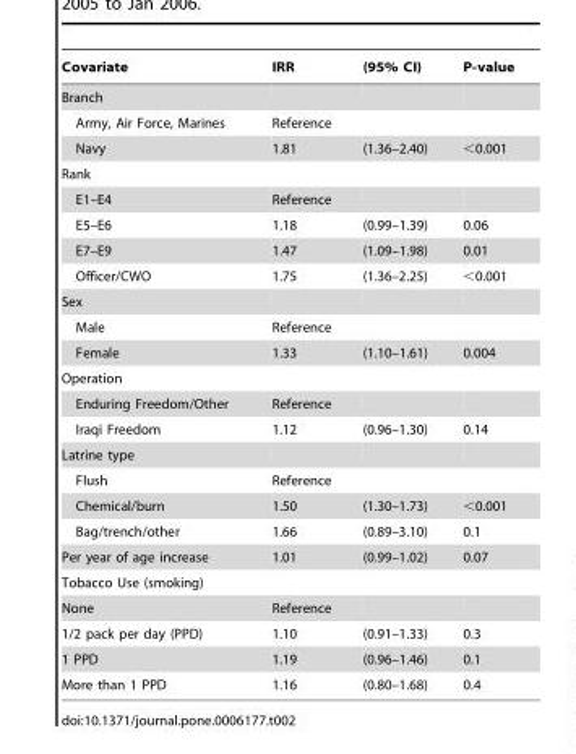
<table><thead><tr><td>Covariate</td><td>IRR</td><td>(95% CI)</td><td>P-value</td></tr></thead><tbody><tr><td colspan="4">Branch</td></tr><tr><td>Army, Air Force, Marines</td><td>Reference</td><td></td><td></td></tr><tr><td>Navy</td><td>1.81</td><td>(1.36–2.40)</td><td>&lt;0.001</td></tr><tr><td colspan="4">Rank</td></tr><tr><td>E1–E4</td><td>Reference</td><td></td><td></td></tr><tr><td>E5–E6</td><td>1.18</td><td>(0.99–1.39)</td><td>0.06</td></tr><tr><td>E7–E9</td><td>1.47</td><td>(1.09–1.98)</td><td>0.01</td></tr><tr><td>Officer/CWO</td><td>1.75</td><td>(1.36–2.25)</td><td>&lt;0.001</td></tr><tr><td colspan="4">Sex</td></tr><tr><td>Male</td><td>Reference</td><td></td><td></td></tr><tr><td>Female</td><td>1.33</td><td>(1.10–1.61)</td><td>0.004</td></tr><tr><td colspan="4">Operation</td></tr><tr><td>Enduring Freedom/Other</td><td>Reference</td><td></td><td></td></tr><tr><td>Iraqi Freedom</td><td>1.12</td><td>(0.96–1.30)</td><td>0.14</td></tr><tr><td colspan="4">Latrine type</td></tr><tr><td>Flush</td><td>Reference</td><td></td><td></td></tr><tr><td>Chemical/burn</td><td>1.50</td><td>(1.30–1.73)</td><td>&lt;0.001</td></tr><tr><td>Bag/trench/other</td><td>1.66</td><td>(0.89–3.10)</td><td>0.1</td></tr><tr><td>Per year of age increase</td><td>1.01</td><td>(0.99–1.02)</td><td>0.07</td></tr><tr><td colspan="4">Tobacco Use (smoking)</td></tr><tr><td>None</td><td>Reference</td><td></td><td></td></tr><tr><td>1/2 pack per day (PPD)</td><td>1.10</td><td>(0.91–1.33)</td><td>0.3</td></tr><tr><td>1 PPD</td><td>1.19</td><td>(0.96–1.46)</td><td>0.1</td></tr><tr><td>More than 1 PPD</td><td>1.16</td><td>(0.80–1.68)</td><td>0.4</td></tr></tbody></table>